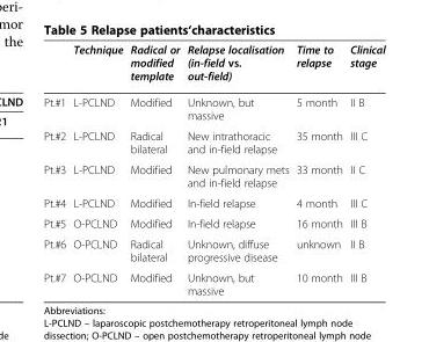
<table><thead><tr><td></td><td>Technique</td><td>Radical or modified template</td><td>Relapse localisation (in-field vs. out-field)</td><td>Time to relapse</td><td>Clinical stage</td></tr></thead><tbody><tr><td>Pt.#1</td><td>L-PCLND</td><td>Modified</td><td>Unknown, but massive</td><td>5 month</td><td>II B</td></tr><tr><td>Pt.#2</td><td>L-PCLND</td><td>Radical bilateral</td><td>New intrathoracic and in-field relapse</td><td>35 month</td><td>III C</td></tr><tr><td>Pt.#3</td><td>L-PCLND</td><td>Modified</td><td>New pulmonary mets and in-field relapse</td><td>33 month</td><td>II C</td></tr><tr><td>Pt.#4</td><td>L-PCLND</td><td>Modified</td><td>In-field relapse</td><td>4 month</td><td>III C</td></tr><tr><td>Pt.#5</td><td>O-PCLND</td><td>Modified</td><td>In-field relapse</td><td>16 month</td><td>III B</td></tr><tr><td>Pt.#6</td><td>O-PCLND</td><td>Radical bilateral</td><td>Unknown, diffuse progressive disease</td><td>unknown</td><td>II B</td></tr><tr><td>Pt.#7</td><td>O-PCLND</td><td>Modified</td><td>Unknown, but massive</td><td>10 month</td><td>III B</td></tr></tbody></table>